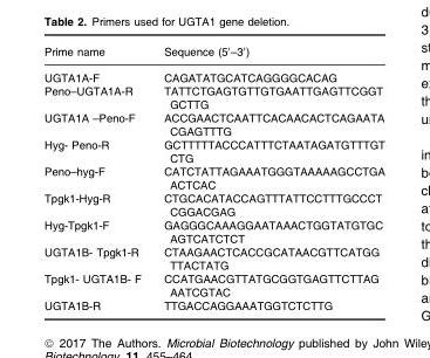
<table><thead><tr><td>Prime name</td><td>Sequence (5′–3′)</td></tr></thead><tbody><tr><td>UGTA1A-F</td><td>CAGATATGCATCAGGGGCACAG</td></tr><tr><td>Peno–UGTA1A-R</td><td>TATTCTGAGTGTTGTGAATTGAGTTCGGT GCTTG</td></tr><tr><td>UGTA1A –Peno-F</td><td>ACCGAACTCAATTCACAACACTCAGAATA CGAGTTTG</td></tr><tr><td>Hyg- Peno-R</td><td>GCTTTTTACCCATTTCTAATAGATGTTTGT CTG</td></tr><tr><td>Peno–hyg-F</td><td>CATCTATTAGAAATGGGTAAAAAGCCTGA ACTCAC</td></tr><tr><td>Tpgk1-Hyg-R</td><td>CTGCACATACCAGTTTATTCCTTTGCCCT CGGACGAG</td></tr><tr><td>Hyg-Tpgk1-F</td><td>GAGGGCAAAGGAATAAACTGGTATGTGC AGTCATCTCT</td></tr><tr><td>UGTA1B- Tpgk1-R</td><td>CTAAGAACTCACCGCATAACGTTCATGG TTACTATG</td></tr><tr><td>Tpgk1- UGTA1B- F</td><td>CCATGAACGTTATGCGGTGAGTTCTTAG AATCGTAC</td></tr><tr><td>UGTA1B-R</td><td>TTGACCAGGAAATGGTCTCTTG</td></tr></tbody></table>